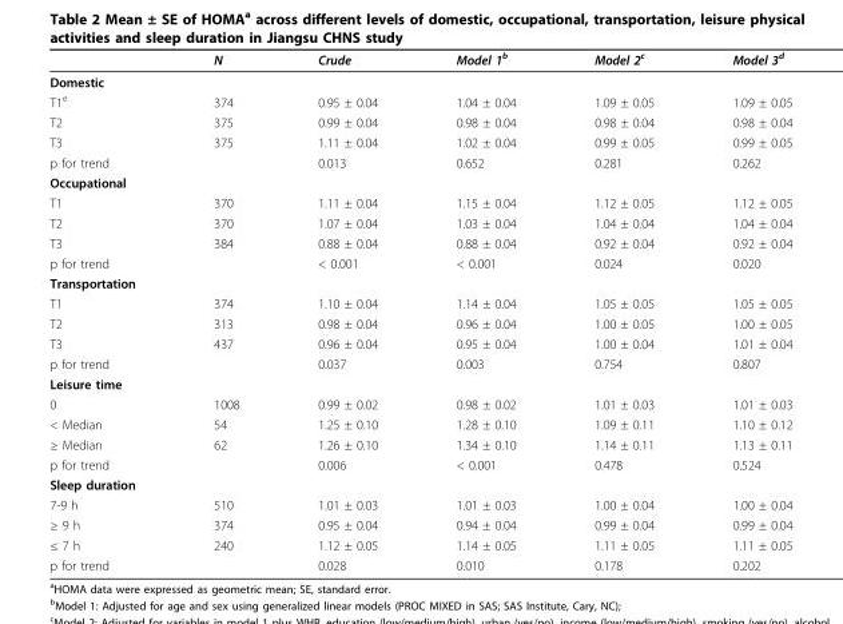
<table><thead><tr><td></td><td>N</td><td>Crude</td><td>Model 1<sup>b</sup></td><td>Model 2<sup>c</sup></td><td>Model 3<sup>d</sup></td></tr></thead><tbody><tr><td colspan="6">Domestic</td></tr><tr><td>T1<sup>e</sup></td><td>374</td><td>0.95 ± 0.04</td><td>1.04 ± 0.04</td><td>1.09 ± 0.05</td><td>1.09 ± 0.05</td></tr><tr><td>T2</td><td>375</td><td>0.99 ± 0.04</td><td>0.98 ± 0.04</td><td>0.98 ± 0.04</td><td>0.98 ± 0.04</td></tr><tr><td>T3</td><td>375</td><td>1.11 ± 0.04</td><td>1.02 ± 0.04</td><td>0.99 ± 0.05</td><td>0.99 ± 0.05</td></tr><tr><td>p for trend</td><td></td><td>0.013</td><td>0.652</td><td>0.281</td><td>0.262</td></tr><tr><td colspan="6">Occupational</td></tr><tr><td>T1</td><td>370</td><td>1.11 ± 0.04</td><td>1.15 ± 0.04</td><td>1.12 ± 0.05</td><td>1.12 ± 0.05</td></tr><tr><td>T2</td><td>370</td><td>1.07 ± 0.04</td><td>1.03 ± 0.04</td><td>1.04 ± 0.04</td><td>1.04 ± 0.04</td></tr><tr><td>T3</td><td>384</td><td>0.88 ± 0.04</td><td>0.88 ± 0.04</td><td>0.92 ± 0.04</td><td>0.92 ± 0.04</td></tr><tr><td>p for trend</td><td></td><td>&lt; 0.001</td><td>&lt; 0.001</td><td>0.024</td><td>0.020</td></tr><tr><td colspan="6">Transportation</td></tr><tr><td>T1</td><td>374</td><td>1.10 ± 0.04</td><td>1.14 ± 0.04</td><td>1.05 ± 0.05</td><td>1.05 ± 0.05</td></tr><tr><td>T2</td><td>313</td><td>0.98 ± 0.04</td><td>0.96 ± 0.04</td><td>1.00 ± 0.05</td><td>1.00 ± 0.05</td></tr><tr><td>T3</td><td>437</td><td>0.96 ± 0.04</td><td>0.95 ± 0.04</td><td>1.00 ± 0.04</td><td>1.01 ± 0.04</td></tr><tr><td>p for trend</td><td></td><td>0.037</td><td>0.003</td><td>0.754</td><td>0.807</td></tr><tr><td colspan="6">Leisure time</td></tr><tr><td>0</td><td>1008</td><td>0.99 ± 0.02</td><td>0.98 ± 0.02</td><td>1.01 ± 0.03</td><td>1.01 ± 0.03</td></tr><tr><td>&lt; Median</td><td>54</td><td>1.25 ± 0.10</td><td>1.28 ± 0.10</td><td>1.09 ± 0.11</td><td>1.10 ± 0.12</td></tr><tr><td>≥ Median</td><td>62</td><td>1.26 ± 0.10</td><td>1.34 ± 0.10</td><td>1.14 ± 0.11</td><td>1.13 ± 0.11</td></tr><tr><td>p for trend</td><td></td><td>0.006</td><td>&lt; 0.001</td><td>0.478</td><td>0.524</td></tr><tr><td colspan="6">Sleep duration</td></tr><tr><td>7-9 h</td><td>510</td><td>1.01 ± 0.03</td><td>1.01 ± 0.03</td><td>1.00 ± 0.04</td><td>1.00 ± 0.04</td></tr><tr><td>≥ 9 h</td><td>374</td><td>0.95 ± 0.04</td><td>0.94 ± 0.04</td><td>0.99 ± 0.04</td><td>0.99 ± 0.04</td></tr><tr><td>≤ 7 h</td><td>240</td><td>1.12 ± 0.05</td><td>1.14 ± 0.05</td><td>1.11 ± 0.05</td><td>1.11 ± 0.05</td></tr><tr><td>p for trend</td><td></td><td>0.028</td><td>0.010</td><td>0.178</td><td>0.202</td></tr></tbody></table>